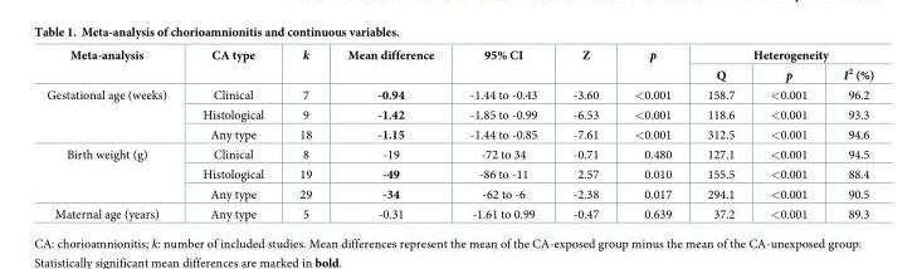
<table><thead><tr><td rowspan="2">Meta-analysis</td><td rowspan="2">CA type</td><td rowspan="2">k</td><td rowspan="2">Mean difference</td><td rowspan="2">95% CI</td><td rowspan="2">Z</td><td rowspan="2">p</td><td colspan="3">Heterogeneity</td></tr><tr><td>Q</td><td>p</td><td>I<sup>2</sup> (%)</td></tr></thead><tbody><tr><td rowspan="3">Gestational age (weeks)</td><td>Clinical</td><td>7</td><td>-0.94</td><td>-1.44 to -0.43</td><td>-3.60</td><td>&lt;0.001</td><td>158.7</td><td>&lt;0.001</td><td>96.2</td></tr><tr><td>Histological</td><td>9</td><td>-1.42</td><td>-1.85 to -0.99</td><td>-6.53</td><td>&lt;0.001</td><td>118.6</td><td>&lt;0.001</td><td>93.3</td></tr><tr><td>Any type</td><td>18</td><td>-1.15</td><td>-1.44 to -0.85</td><td>-7.61</td><td>&lt;0.001</td><td>312.5</td><td>&lt;0.001</td><td>94.6</td></tr><tr><td rowspan="3">Birth weight (g)</td><td>Clinical</td><td>8</td><td>-19</td><td>-72 to 34</td><td>-0.71</td><td>0.480</td><td>127.1</td><td>&lt;0.001</td><td>94.5</td></tr><tr><td>Histological</td><td>19</td><td>-49</td><td>-86 to -11</td><td>2.57</td><td>0.010</td><td>155.5</td><td>&lt;0.001</td><td>88.4</td></tr><tr><td>Any type</td><td>29</td><td>-34</td><td>-62 to -6</td><td>-2.38</td><td>0.017</td><td>294.1</td><td>&lt;0.001</td><td>90.5</td></tr><tr><td>Maternal age (years)</td><td>Any type</td><td>5</td><td>-0.31</td><td>-1.61 to 0.99</td><td>-0.47</td><td>0.639</td><td>37.2</td><td>&lt;0.001</td><td>89.3</td></tr></tbody></table>